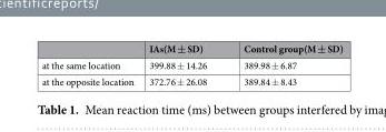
<table><thead><tr><td></td><td>IAs(M ± SD)</td><td>Control group(M ± SD)</td></tr></thead><tbody><tr><td>at the same location</td><td>399.88 ± 14.26</td><td>389.98 ± 6.87</td></tr><tr><td>at the opposite location</td><td>372.76 ± 26.08</td><td>389.84 ± 8.43</td></tr></tbody></table>